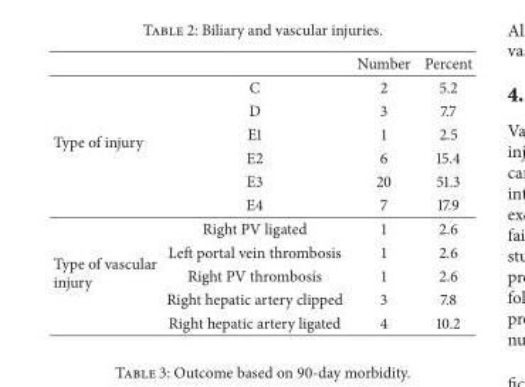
<table><thead><tr><td></td><td></td><td>Number</td><td>Percent</td></tr></thead><tbody><tr><td rowspan="6">Type of injury</td><td>C</td><td>2</td><td>5.2</td></tr><tr><td>D</td><td>3</td><td>7.7</td></tr><tr><td>E1</td><td>1</td><td>2.5</td></tr><tr><td>E2</td><td>6</td><td>15.4</td></tr><tr><td>E3</td><td>20</td><td>51.3</td></tr><tr><td>E4</td><td>7</td><td>17.9</td></tr><tr><td rowspan="5">Type of vascular injury</td><td>Right PV ligated</td><td>1</td><td>2.6</td></tr><tr><td>Left portal vein thrombosis</td><td>1</td><td>2.6</td></tr><tr><td>Right PV thrombosis</td><td>1</td><td>2.6</td></tr><tr><td>Right hepatic artery clipped</td><td>3</td><td>7.8</td></tr><tr><td>Right hepatic artery ligated</td><td>4</td><td>10.2</td></tr></tbody></table>